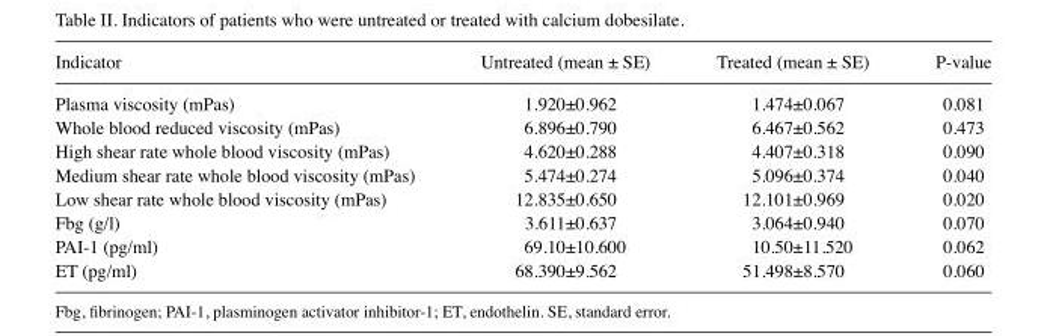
<table><thead><tr><td>Indicator</td><td>Untreated (mean ± SE)</td><td>Treated (mean ± SE)</td><td>P-value</td></tr></thead><tbody><tr><td>Plasma viscosity (mPas)</td><td>1.920±0.962</td><td>1.474±0.067</td><td>0.081</td></tr><tr><td>Whole blood reduced viscosity (mPas)</td><td>6.896±0.790</td><td>6.467±0.562</td><td>0.473</td></tr><tr><td>High shear rate whole blood viscosity (mPas)</td><td>4.620±0.288</td><td>4.407±0.318</td><td>0.090</td></tr><tr><td>Medium shear rate whole blood viscosity (mPas)</td><td>5.474±0.274</td><td>5.096±0.374</td><td>0.040</td></tr><tr><td>Low shear rate whole blood viscosity (mPas)</td><td>12.835±0.650</td><td>12.101±0.969</td><td>0.020</td></tr><tr><td>Fbg (g/l)</td><td>3.611±0.637</td><td>3.064±0.940</td><td>0.070</td></tr><tr><td>PAI-1 (pg/ml)</td><td>69.10±10.600</td><td>10.50±11.520</td><td>0.062</td></tr><tr><td>ET (pg/ml)</td><td>68.390±9.562</td><td>51.498±8.570</td><td>0.060</td></tr></tbody></table>